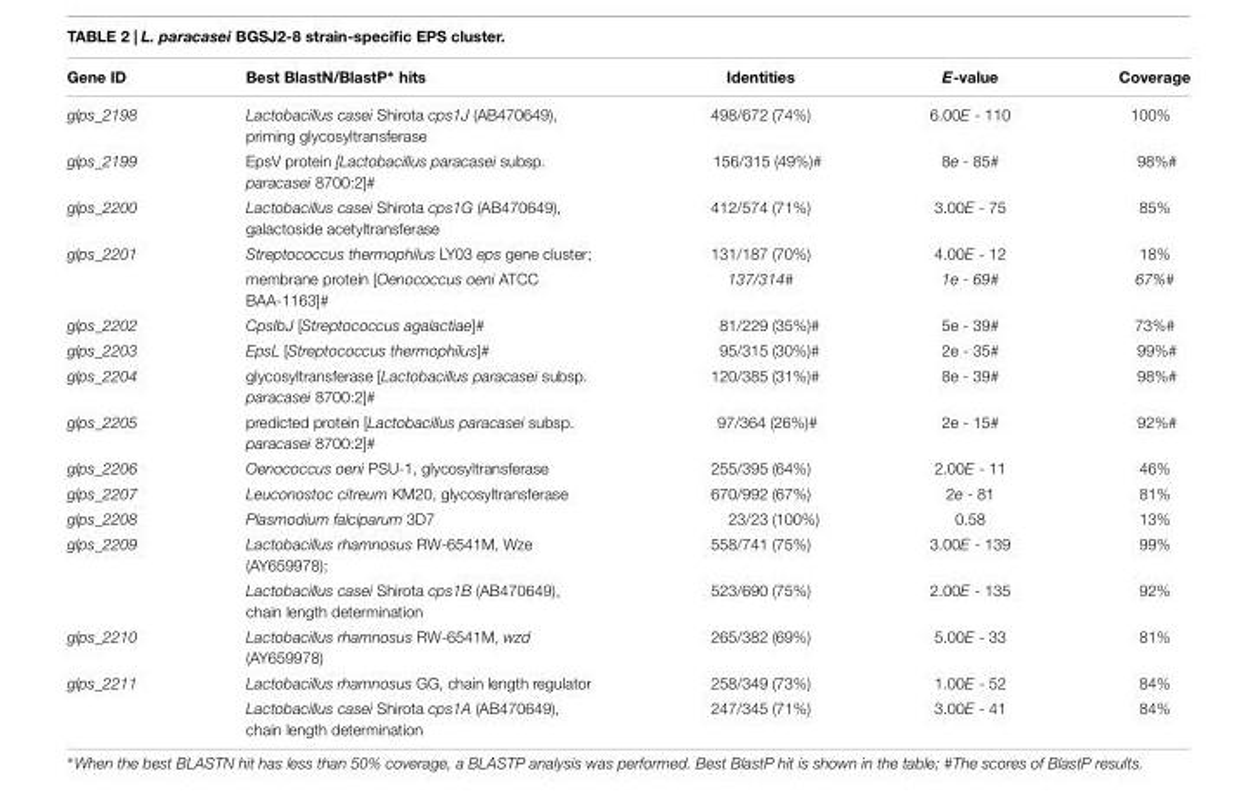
<table><thead><tr><td>Gene ID</td><td>Best BlastN/BlastP∗ hits</td><td>Identities</td><td>E-value</td><td>Coverage</td></tr></thead><tbody><tr><td>glps_2198</td><td>Lactobacillus casei Shirota cps1J (AB470649), priming glycosyltransferase</td><td>498/672 (74%)</td><td>6.00E - 110</td><td>100%</td></tr><tr><td>glps_2199</td><td>EpsV protein [Lactobacillus paracasei subsp. paracasei 8700:2]#</td><td>156/315 (49%)#</td><td>8e - 85#</td><td>98%#</td></tr><tr><td>glps_2200</td><td>Lactobacillus casei Shirota cps1G (AB470649), galactoside acetyltransferase</td><td>412/574 (71%)</td><td>3.00E - 75</td><td>85%</td></tr><tr><td rowspan="2">glps_2201</td><td>Streptococcus thermophilus LY03 eps gene cluster;</td><td>131/187 (70%)</td><td>4.00E - 12</td><td>18%</td></tr><tr><td>membrane protein [Oenococcus oeni ATCC BAA-1163]#</td><td>137/314#</td><td>1e - 69#</td><td>67%#</td></tr><tr><td>glps_2202</td><td>CpsIbJ [Streptococcus agalactiae]#</td><td>81/229 (35%)#</td><td>5e - 39#</td><td>73%#</td></tr><tr><td>glps_2203</td><td>EpsL [Streptococcus thermophilus]#</td><td>95/315 (30%)#</td><td>2e - 35#</td><td>99%#</td></tr><tr><td>glps_2204</td><td>glycosyltransferase [Lactobacillus paracasei subsp. paracasei 8700:2]#</td><td>120/385 (31%)#</td><td>8e - 39#</td><td>98%#</td></tr><tr><td>glps_2205</td><td>predicted protein [Lactobacillus paracasei subsp. paracasei 8700:2]#</td><td>97/364 (26%)#</td><td>2e - 15#</td><td>92%#</td></tr><tr><td>glps_2206</td><td>Oenococcus oeni PSU-1, glycosyltransferase</td><td>255/395 (64%)</td><td>2.00E - 11</td><td>46%</td></tr><tr><td>glps_2207</td><td>Leuconostoc citreum KM20, glycosyltransferase</td><td>670/992 (67%)</td><td>2e - 81</td><td>81%</td></tr><tr><td>glps_2208</td><td>Plasmodium falciparum 3D7</td><td>23/23 (100%)</td><td>0.58</td><td>13%</td></tr><tr><td rowspan="2">glps_2209</td><td>Lactobacillus rhamnosus RW-6541M, Wze (AY659978);</td><td>558/741 (75%)</td><td>3.00E - 139</td><td>99%</td></tr><tr><td>Lactobacillus casei Shirota cps1B (AB470649), chain length determination</td><td>523/690 (75%)</td><td>2.00E - 135</td><td>92%</td></tr><tr><td>glps_2210</td><td>Lactobacillus rhamnosus RW-6541M, wzd (AY659978)</td><td>265/382 (69%)</td><td>5.00E - 33</td><td>81%</td></tr><tr><td rowspan="2">glps_2211</td><td>Lactobacillus rhamnosus GG, chain length regulator</td><td>258/349 (73%)</td><td>1.00E - 52</td><td>84%</td></tr><tr><td>Lactobacillus casei Shirota cps1A (AB470649), chain length determination</td><td>247/345 (71%)</td><td>3.00E - 41</td><td>84%</td></tr></tbody></table>